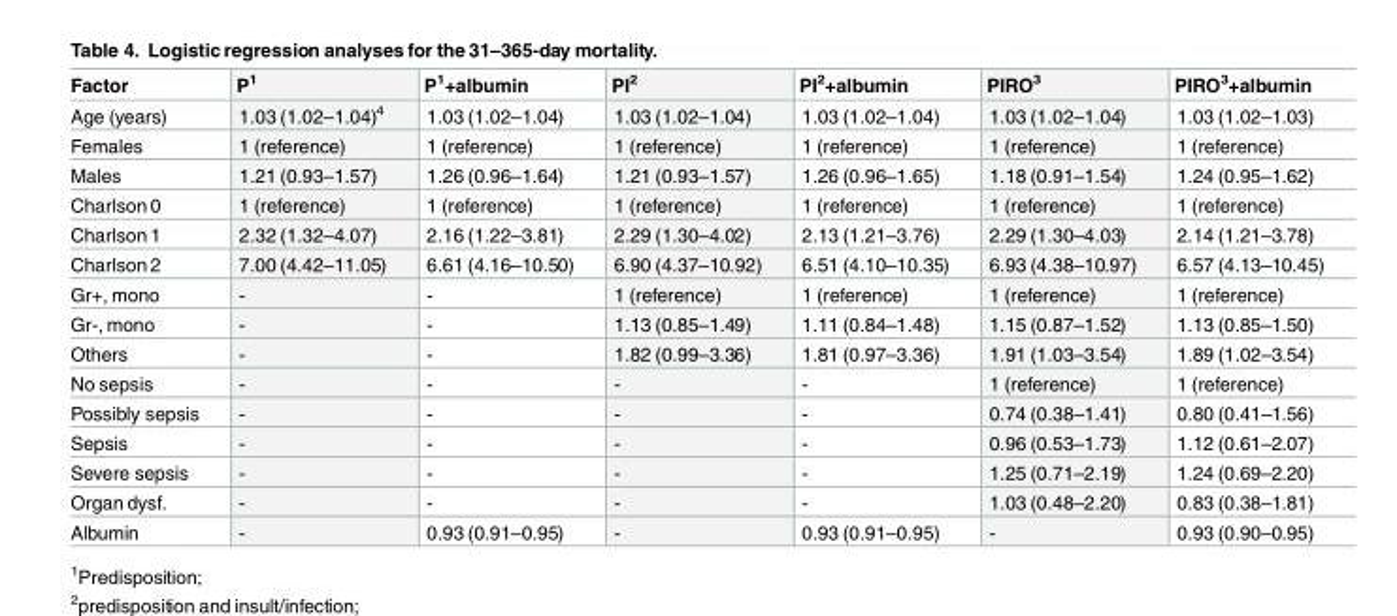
<table><thead><tr><td>Factor</td><td>P<sup>1</sup></td><td>P<sup>1</sup>+albumin</td><td>PI<sup>2</sup></td><td>PI<sup>2</sup>+albumin</td><td>PIRO<sup>3</sup></td><td>PIRO<sup>3</sup>+albumin</td></tr></thead><tbody><tr><td>Age (years)</td><td>1.03 (1.02–1.04)<sup>4</sup></td><td>1.03 (1.02–1.04)</td><td>1.03 (1.02–1.04)</td><td>1.03 (1.02–1.04)</td><td>1.03 (1.02–1.04)</td><td>1.03 (1.02–1.03)</td></tr><tr><td>Females</td><td>1 (reference)</td><td>1 (reference)</td><td>1 (reference)</td><td>1 (reference)</td><td>1 (reference)</td><td>1 (reference)</td></tr><tr><td>Males</td><td>1.21 (0.93–1.57)</td><td>1.26 (0.96–1.64)</td><td>1.21 (0.93–1.57)</td><td>1.26 (0.96–1.65)</td><td>1.18 (0.91–1.54)</td><td>1.24 (0.95–1.62)</td></tr><tr><td>Charlson 0</td><td>1 (reference)</td><td>1 (reference)</td><td>1 (reference)</td><td>1 (reference)</td><td>1 (reference)</td><td>1 (reference)</td></tr><tr><td>Charlson 1</td><td>2.32 (1.32–4.07)</td><td>2.16 (1.22–3.81)</td><td>2.29 (1.30–4.02)</td><td>2.13 (1.21–3.76)</td><td>2.29 (1.30–4.03)</td><td>2.14 (1.21–3.78)</td></tr><tr><td>Charlson 2</td><td>7.00 (4.42–11.05)</td><td>6.61 (4.16–10.50)</td><td>6.90 (4.37–10.92)</td><td>6.51 (4.10–10.35)</td><td>6.93 (4.38–10.97)</td><td>6.57 (4.13–10.45)</td></tr><tr><td>Gr+, mono</td><td>-</td><td>-</td><td>1 (reference)</td><td>1 (reference)</td><td>1 (reference)</td><td>1 (reference)</td></tr><tr><td>Gr-, mono</td><td>-</td><td>-</td><td>1.13 (0.85–1.49)</td><td>1.11 (0.84–1.48)</td><td>1.15 (0.87–1.52)</td><td>1.13 (0.85–1.50)</td></tr><tr><td>Others</td><td>-</td><td>-</td><td>1.82 (0.99–3.36)</td><td>1.81 (0.97–3.36)</td><td>1.91 (1.03–3.54)</td><td>1.89 (1.02–3.54)</td></tr><tr><td>No sepsis</td><td>-</td><td>-</td><td>-</td><td>-</td><td>1 (reference)</td><td>1 (reference)</td></tr><tr><td>Possibly sepsis</td><td>-</td><td>-</td><td>-</td><td>-</td><td>0.74 (0.38–1.41)</td><td>0.80 (0.41–1.56)</td></tr><tr><td>Sepsis</td><td>-</td><td>-</td><td>-</td><td>-</td><td>0.96 (0.53–1.73)</td><td>1.12 (0.61–2.07)</td></tr><tr><td>Severe sepsis</td><td>-</td><td>-</td><td>-</td><td>-</td><td>1.25 (0.71–2.19)</td><td>1.24 (0.69–2.20)</td></tr><tr><td>Organ dysf.</td><td>-</td><td>-</td><td>-</td><td>-</td><td>1.03 (0.48–2.20)</td><td>0.83 (0.38–1.81)</td></tr><tr><td>Albumin</td><td>-</td><td>0.93 (0.91–0.95)</td><td>-</td><td>0.93 (0.91–0.95)</td><td>-</td><td>0.93 (0.90–0.95)</td></tr></tbody></table>